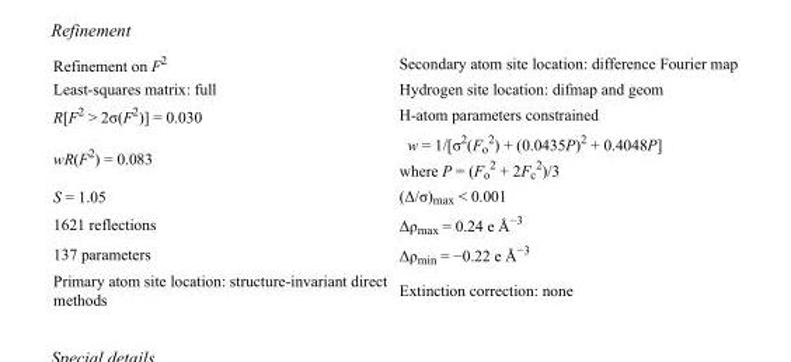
<table><tbody><tr><td>Refinement on F<sup>2</sup></td><td>Secondary atom site location: difference Fourier map</td></tr><tr><td>Least-squares matrix: full</td><td>Hydrogen site location: difmap and geom</td></tr><tr><td>R[F<sup>2</sup> &gt; 2σ(F<sup>2</sup>)] = 0.030</td><td>H-atom parameters constrained</td></tr><tr><td>wR(F<sup>2</sup>) = 0.083</td><td>w = 1/[σ<sup>2</sup>(F<sub>o</sub> <sup>2</sup>) + (0.0435P)<sup>2</sup> + 0.4048P] where P = (F<sub>o</sub> <sup>2</sup> + 2F<sub>c</sub> <sup>2</sup>)/3</td></tr><tr><td>S = 1.05</td><td>(Δ/σ)<sub>max</sub> &lt; 0.001</td></tr><tr><td>1621 reflections</td><td>Δρ<sub>max</sub> = 0.24 e Å<sup>−3</sup></td></tr><tr><td>137 parameters</td><td>Δρ<sub>min</sub> = −0.22 e Å<sup>−3</sup></td></tr><tr><td>Primary atom site location: structure-invariant direct methods</td><td>Extinction correction: none</td></tr></tbody></table>